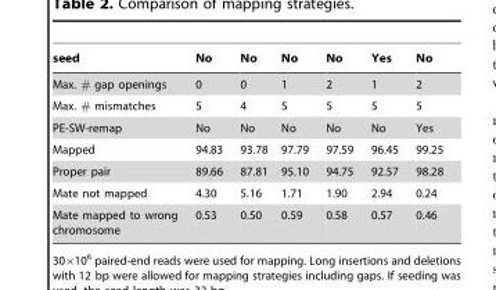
<table><thead><tr><td>seed</td><td>No</td><td>No</td><td>No</td><td>No</td><td>Yes</td><td>No</td></tr></thead><tbody><tr><td>Max. # gap openings</td><td>0</td><td>0</td><td>1</td><td>2</td><td>1</td><td>2</td></tr><tr><td>Max. # mismatches</td><td>5</td><td>4</td><td>5</td><td>5</td><td>5</td><td>5</td></tr><tr><td>PE-SW-remap</td><td>No</td><td>No</td><td>No</td><td>No</td><td>No</td><td>Yes</td></tr><tr><td>Mapped</td><td>94.83</td><td>93.78</td><td>97.79</td><td>97.59</td><td>96.45</td><td>99.25</td></tr><tr><td>Proper pair</td><td>89.66</td><td>87.81</td><td>95.10</td><td>94.75</td><td>92.57</td><td>98.28</td></tr><tr><td>Mate not mapped</td><td>4.30</td><td>5.16</td><td>1.71</td><td>1.90</td><td>2.94</td><td>0.24</td></tr><tr><td>Mate mapped to wrong chromosome</td><td>0.53</td><td>0.50</td><td>0.59</td><td>0.58</td><td>0.57</td><td>0.46</td></tr></tbody></table>